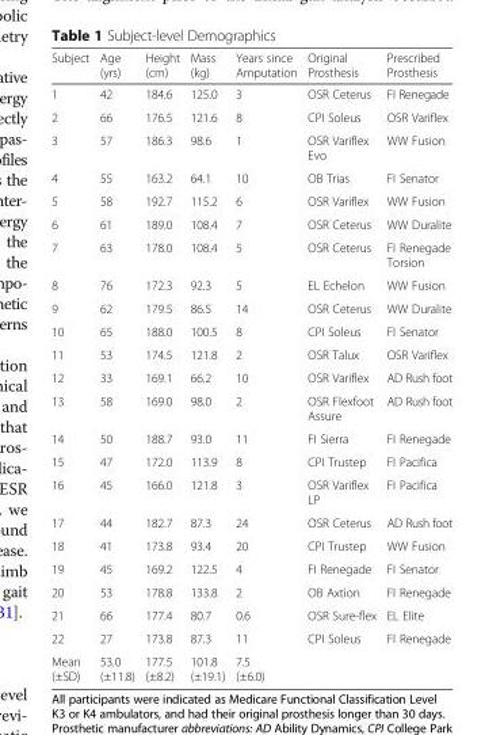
<table><thead><tr><td>Subject</td><td>Age (yrs)</td><td>Height (cm)</td><td>Mass (kg)</td><td>Years since Amputation</td><td>Original Prosthesis</td><td>Prescribed Prosthesis</td></tr></thead><tbody><tr><td>1</td><td>42</td><td>184.6</td><td>125.0</td><td>3</td><td>OSR Ceterus</td><td>FI Renegade</td></tr><tr><td>2</td><td>66</td><td>176.5</td><td>121.6</td><td>8</td><td>CPI Soleus</td><td>OSR Variflex</td></tr><tr><td>3</td><td>57</td><td>186.3</td><td>98.6</td><td>1</td><td>OSR Variflex Evo</td><td>WW Fusion</td></tr><tr><td>4</td><td>55</td><td>163.2</td><td>64.1</td><td>10</td><td>OB Trias</td><td>FI Senator</td></tr><tr><td>5</td><td>58</td><td>192.7</td><td>115.2</td><td>6</td><td>OSR Variflex</td><td>WW Fusion</td></tr><tr><td>6</td><td>61</td><td>189.0</td><td>108.4</td><td>7</td><td>OSR Ceterus</td><td>WW Duralite</td></tr><tr><td>7</td><td>63</td><td>178.0</td><td>108.4</td><td>5</td><td>OSR Ceterus</td><td>FI Renegade Torsion</td></tr><tr><td>8</td><td>76</td><td>172.3</td><td>92.3</td><td>5</td><td>EL Echelon</td><td>WW Fusion</td></tr><tr><td>9</td><td>62</td><td>179.5</td><td>86.5</td><td>14</td><td>OSR Ceterus</td><td>WW Duralite</td></tr><tr><td>10</td><td>65</td><td>188.0</td><td>100.5</td><td>8</td><td>CPI Soleus</td><td>FI Senator</td></tr><tr><td>11</td><td>53</td><td>174.5</td><td>121.8</td><td>2</td><td>OSR Talux</td><td>OSR Variflex</td></tr><tr><td>12</td><td>33</td><td>169.1</td><td>66.2</td><td>10</td><td>OSR Variflex</td><td>AD Rush foot</td></tr><tr><td>13</td><td>58</td><td>169.0</td><td>98.0</td><td>2</td><td>OSR Flexfoot Assure</td><td>AD Rush foot</td></tr><tr><td>14</td><td>50</td><td>188.7</td><td>93.0</td><td>11</td><td>FI Sierra</td><td>FI Renegade</td></tr><tr><td>15</td><td>47</td><td>172.0</td><td>113.9</td><td>8</td><td>CPI Trustep</td><td>FI Pacifica</td></tr><tr><td>16</td><td>45</td><td>166.0</td><td>121.8</td><td>3</td><td>OSR Variflex LP</td><td>FI Pacifica</td></tr><tr><td>17</td><td>44</td><td>182.7</td><td>87.3</td><td>24</td><td>OSR Ceterus</td><td>AD Rush foot</td></tr><tr><td>18</td><td>41</td><td>173.8</td><td>93.4</td><td>20</td><td>CPI Trustep</td><td>WW Fusion</td></tr><tr><td>19</td><td>45</td><td>169.2</td><td>122.5</td><td>4</td><td>FI Renegade</td><td>FI Senator</td></tr><tr><td>20</td><td>53</td><td>178.8</td><td>133.8</td><td>2</td><td>OB Axtion</td><td>FI Renegade</td></tr><tr><td>21</td><td>66</td><td>177.4</td><td>80.7</td><td>0.6</td><td>OSR Sure-flex</td><td>EL Elite</td></tr><tr><td>22</td><td>27</td><td>173.8</td><td>87.3</td><td>11</td><td>CPI Soleus</td><td>FI Renegade</td></tr><tr><td>Mean (±SD)</td><td>53.0 (±11.8)</td><td>177.5 (±8.2)</td><td>101.8 (±19.1)</td><td>7.5 (±6.0)</td><td></td><td></td></tr></tbody></table>